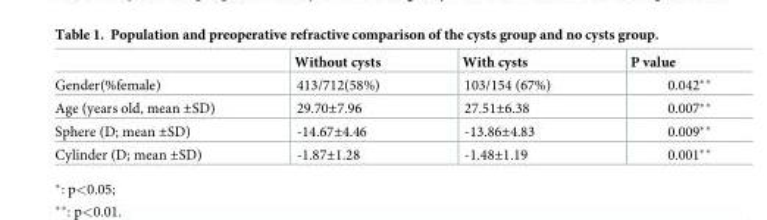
<table><thead><tr><td></td><td>Without cysts</td><td>With cysts</td><td>P value</td></tr></thead><tbody><tr><td>Gender(%female)</td><td>413/712(58%)</td><td>103/154 (67%)</td><td>0.042**</td></tr><tr><td>Age (years old, mean ±SD)</td><td>29.70±7.96</td><td>27.51±6.38</td><td>0.007**</td></tr><tr><td>Sphere (D; mean ±SD)</td><td>-14.67±4.46</td><td>-13.86±4.83</td><td>0.009**</td></tr><tr><td>Cylinder (D; mean ±SD)</td><td>-1.87±1.28</td><td>-1.48±1.19</td><td>0.001**</td></tr></tbody></table>